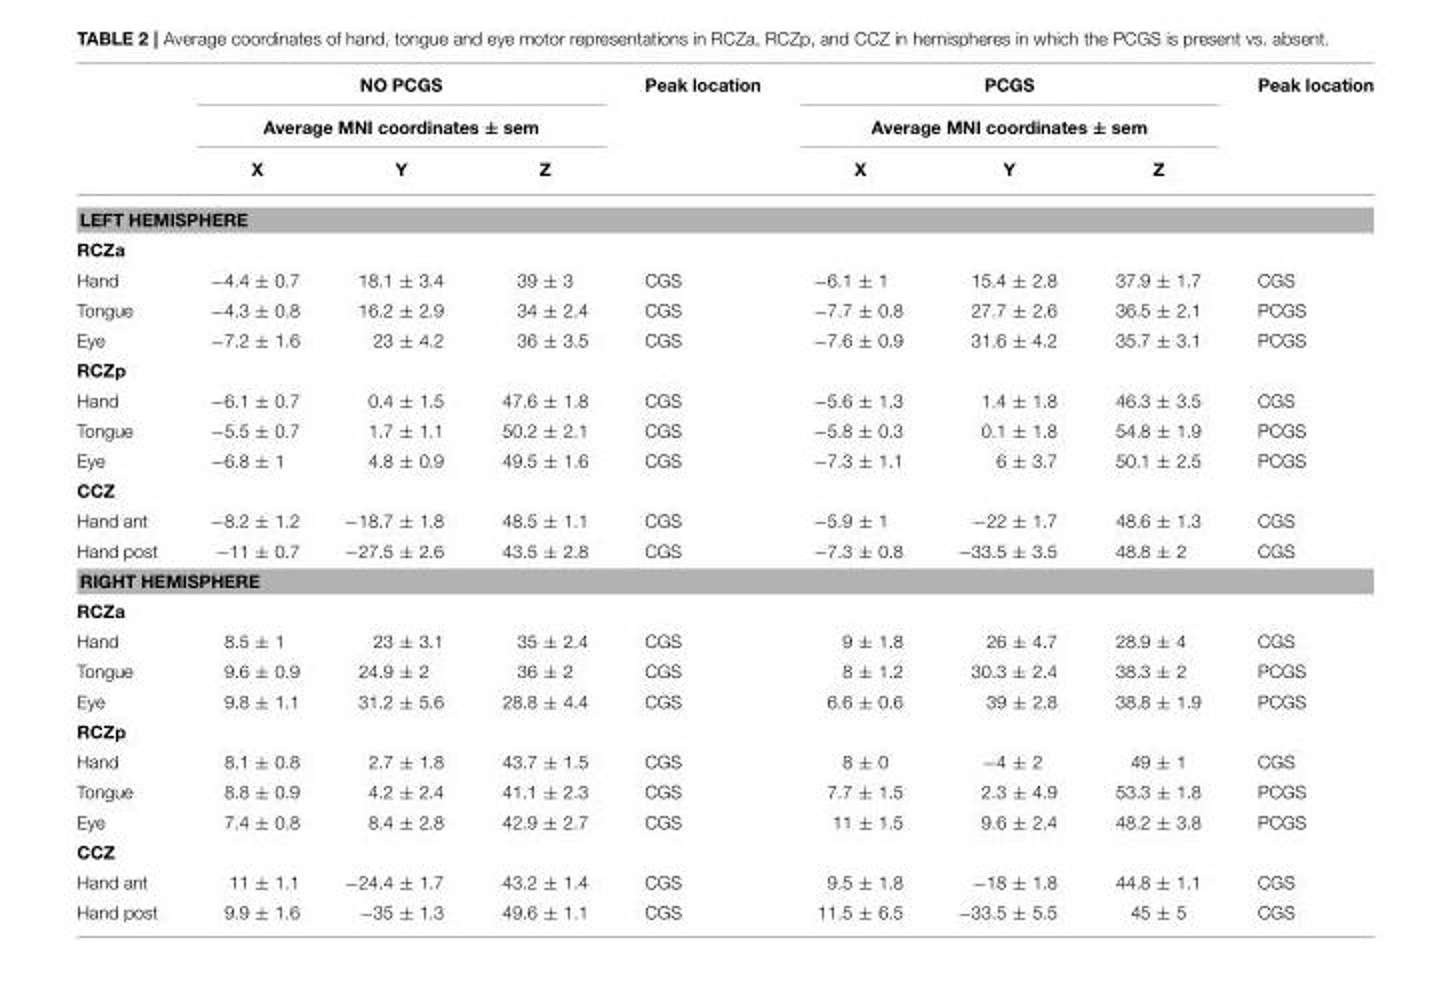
<table><thead><tr><td rowspan="3"></td><td rowspan="2" colspan="3">NO PCGS Average MNI coordinates ± sem</td><td rowspan="3">Peak location</td><td rowspan="2" colspan="3">PCGS Average MNI coordinates ± sem</td><td rowspan="3">Peak location</td></tr><tr></tr><tr><td>X</td><td>Y</td><td>Z</td><td>X</td><td>Y</td><td>Z</td></tr></thead><tbody><tr><td colspan="9">LEFT HEMISPHERE</td></tr><tr><td colspan="9">RCZa</td></tr><tr><td>Hand</td><td>−4.4 ± 0.7</td><td>18.1 ± 3.4</td><td>39 ± 3</td><td>CGS</td><td>−6.1 ± 1</td><td>15.4 ± 2.8</td><td>37.9 ± 1.7</td><td>CGS</td></tr><tr><td>Tongue</td><td>−4.3 ± 0.8</td><td>16.2 ± 2.9</td><td>34 ± 2.4</td><td>CGS</td><td>−7.7 ± 0.8</td><td>27.7 ± 2.6</td><td>36.5 ± 2.1</td><td>PCGS</td></tr><tr><td>Eye</td><td>−7.2 ± 1.6</td><td>23 ± 4.2</td><td>36 ± 3.5</td><td>CGS</td><td>−7.6 ± 0.9</td><td>31.6 ± 4.2</td><td>35.7 ± 3.1</td><td>PCGS</td></tr><tr><td colspan="9">RCZp</td></tr><tr><td>Hand</td><td>−6.1 ± 0.7</td><td>0.4 ± 1.5</td><td>47.6 ± 1.8</td><td>CGS</td><td>−5.6 ± 1.3</td><td>1.4 ± 1.8</td><td>46.3 ± 3.5</td><td>CGS</td></tr><tr><td>Tongue</td><td>−5.5 ± 0.7</td><td>1.7 ± 1.1</td><td>50.2 ± 2.1</td><td>CGS</td><td>−5.8 ± 0.3</td><td>0.1 ± 1.8</td><td>54.8 ± 1.9</td><td>PCGS</td></tr><tr><td>Eye</td><td>−6.8 ± 1</td><td>4.8 ± 0.9</td><td>49.5 ± 1.6</td><td>CGS</td><td>−7.3 ± 1.1</td><td>6 ± 3.7</td><td>50.1 ± 2.5</td><td>PCGS</td></tr><tr><td colspan="9">CCZ</td></tr><tr><td>Hand ant</td><td>−8.2 ± 1.2</td><td>−18.7 ± 1.8</td><td>48.5 ± 1.1</td><td>CGS</td><td>−5.9 ± 1</td><td>−22 ± 1.7</td><td>48.6 ± 1.3</td><td>CGS</td></tr><tr><td>Hand post</td><td>−11 ± 0.7</td><td>−27.5 ± 2.6</td><td>43.5 ± 2.8</td><td>CGS</td><td>−7.3 ± 0.8</td><td>−33.5 ± 3.5</td><td>48.8 ± 2</td><td>CGS</td></tr><tr><td colspan="9">RIGHT HEMISPHERE</td></tr><tr><td colspan="9">RCZa</td></tr><tr><td>Hand</td><td>8.5 ± 1</td><td>23 ± 3.1</td><td>35 ± 2.4</td><td>CGS</td><td>9 ± 1.8</td><td>26 ± 4.7</td><td>28.9 ± 4</td><td>CGS</td></tr><tr><td>Tongue</td><td>9.6 ± 0.9</td><td>24.9 ± 2</td><td>36 ± 2</td><td>CGS</td><td>8 ± 1.2</td><td>30.3 ± 2.4</td><td>38.3 ± 2</td><td>PCGS</td></tr><tr><td>Eye</td><td>9.8 ± 1.1</td><td>31.2 ± 5.6</td><td>28.8 ± 4.4</td><td>CGS</td><td>6.6 ± 0.6</td><td>39 ± 2.8</td><td>38.8 ± 1.9</td><td>PCGS</td></tr><tr><td colspan="9">RCZp</td></tr><tr><td>Hand</td><td>8.1 ± 0.8</td><td>2.7 ± 1.8</td><td>43.7 ± 1.5</td><td>CGS</td><td>8 ± 0</td><td>−4 ± 2</td><td>49 ± 1</td><td>CGS</td></tr><tr><td>Tongue</td><td>8.8 ± 0.9</td><td>4.2 ± 2.4</td><td>41.1 ± 2.3</td><td>CGS</td><td>7.7 ± 1.5</td><td>2.3 ± 4.9</td><td>53.3 ± 1.8</td><td>PCGS</td></tr><tr><td>Eye</td><td>7.4 ± 0.8</td><td>8.4 ± 2.8</td><td>42.9 ± 2.7</td><td>CGS</td><td>11 ± 1.5</td><td>9.6 ± 2.4</td><td>48.2 ± 3.8</td><td>PCGS</td></tr><tr><td colspan="9">CCZ</td></tr><tr><td>Hand ant</td><td>11 ± 1.1</td><td>−24.4 ± 1.7</td><td>43.2 ± 1.4</td><td>CGS</td><td>9.5 ± 1.8</td><td>−18 ± 1.8</td><td>44.8 ± 1.1</td><td>CGS</td></tr><tr><td>Hand post</td><td>9.9 ± 1.6</td><td>−35 ± 1.3</td><td>49.6 ± 1.1</td><td>CGS</td><td>11.5 ± 6.5</td><td>−33.5 ± 5.5</td><td>45 ± 5</td><td>CGS</td></tr></tbody></table>